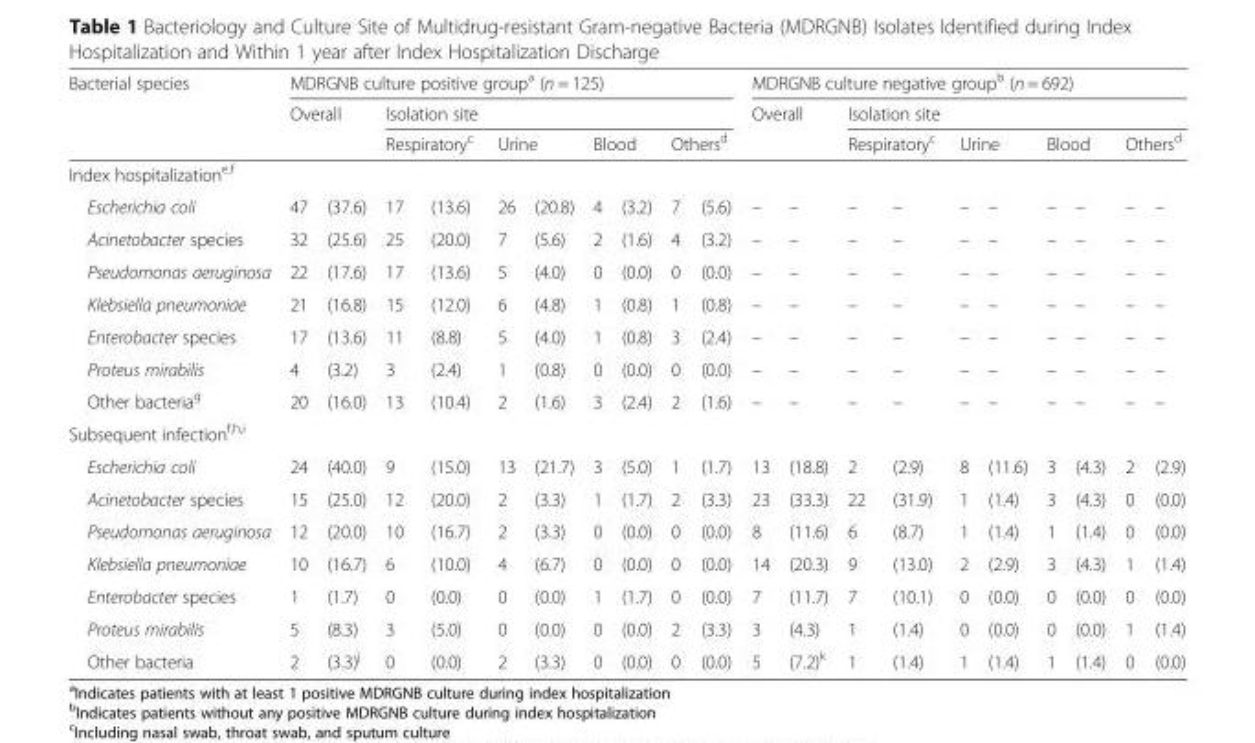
<table><thead><tr><td rowspan="3">Bacterial species</td><td colspan="10">MDRGNB culture positive group<sup>a</sup> (n = 125)</td><td colspan="10">MDRGNB culture negative group<sup>b</sup> (n = 692)</td></tr><tr><td rowspan="2" colspan="2">Overall</td><td colspan="8">Isolation site</td><td rowspan="2" colspan="2">Overall</td><td colspan="8">Isolation site</td></tr><tr><td colspan="2">Respiratory<sup>c</sup></td><td colspan="2">Urine</td><td colspan="2">Blood</td><td colspan="2">Others<sup>d</sup></td><td colspan="2">Respiratory<sup>c</sup></td><td colspan="2">Urine</td><td colspan="2">Blood</td><td colspan="2">Others<sup>d</sup></td></tr><tr><td colspan="21">Index hospitalization<sup>e,f</sup></td></tr><tr><td>Escherichia coli</td><td>47</td><td>(37.6)</td><td>17</td><td>(13.6)</td><td>26</td><td>(20.8)</td><td>4</td><td>(3.2)</td><td>7</td><td>(5.6)</td><td>–</td><td>–</td><td>–</td><td>–</td><td>–</td><td>–</td><td>–</td><td>–</td><td>–</td><td>–</td></tr></thead><tbody><tr><td>Acinetobacter species</td><td>32</td><td>(25.6)</td><td>25</td><td>(20.0)</td><td>7</td><td>(5.6)</td><td>2</td><td>(1.6)</td><td>4</td><td>(3.2)</td><td>–</td><td>–</td><td>–</td><td>–</td><td>–</td><td>–</td><td>–</td><td>–</td><td>–</td><td>–</td></tr><tr><td>Pseudomonas aeruginosa</td><td>22</td><td>(17.6)</td><td>17</td><td>(13.6)</td><td>5</td><td>(4.0)</td><td>0</td><td>(0.0)</td><td>0</td><td>(0.0)</td><td>–</td><td>–</td><td>–</td><td>–</td><td>–</td><td>–</td><td>–</td><td>–</td><td>–</td><td>–</td></tr><tr><td>Klebsiella pneumoniae</td><td>21</td><td>(16.8)</td><td>15</td><td>(12.0)</td><td>6</td><td>(4.8)</td><td>1</td><td>(0.8)</td><td>1</td><td>(0.8)</td><td>–</td><td>–</td><td>–</td><td>–</td><td>–</td><td>–</td><td>–</td><td>–</td><td>–</td><td>–</td></tr><tr><td>Enterobacter species</td><td>17</td><td>(13.6)</td><td>11</td><td>(8.8)</td><td>5</td><td>(4.0)</td><td>1</td><td>(0.8)</td><td>3</td><td>(2.4)</td><td>–</td><td>–</td><td>–</td><td>–</td><td>–</td><td>–</td><td>–</td><td>–</td><td>–</td><td>–</td></tr><tr><td>Proteus mirabilis</td><td>4</td><td>(3.2)</td><td>3</td><td>(2.4)</td><td>1</td><td>(0.8)</td><td>0</td><td>(0.0)</td><td>0</td><td>(0.0)</td><td>–</td><td>–</td><td>–</td><td>–</td><td>–</td><td>–</td><td>–</td><td>–</td><td>–</td><td>–</td></tr><tr><td>Other bacteria<sup>g</sup></td><td>20</td><td>(16.0)</td><td>13</td><td>(10.4)</td><td>2</td><td>(1.6)</td><td>3</td><td>(2.4)</td><td>2</td><td>(1.6)</td><td>–</td><td>–</td><td>–</td><td>–</td><td>–</td><td>–</td><td>–</td><td>–</td><td>–</td><td>–</td></tr><tr><td colspan="21">Subsequent infection<sup>f,h,i</sup></td></tr><tr><td>Escherichia coli</td><td>24</td><td>(40.0)</td><td>9</td><td>(15.0)</td><td>13</td><td>(21.7)</td><td>3</td><td>(5.0)</td><td>1</td><td>(1.7)</td><td>13</td><td>(18.8)</td><td>2</td><td>(2.9)</td><td>8</td><td>(11.6)</td><td>3</td><td>(4.3)</td><td>2</td><td>(2.9)</td></tr><tr><td>Acinetobacter species</td><td>15</td><td>(25.0)</td><td>12</td><td>(20.0)</td><td>2</td><td>(3.3)</td><td>1</td><td>(1.7)</td><td>2</td><td>(3.3)</td><td>23</td><td>(33.3)</td><td>22</td><td>(31.9)</td><td>1</td><td>(1.4)</td><td>3</td><td>(4.3)</td><td>0</td><td>(0.0)</td></tr><tr><td>Pseudomonas aeruginosa</td><td>12</td><td>(20.0)</td><td>10</td><td>(16.7)</td><td>2</td><td>(3.3)</td><td>0</td><td>(0.0)</td><td>0</td><td>(0.0)</td><td>8</td><td>(11.6)</td><td>6</td><td>(8.7)</td><td>1</td><td>(1.4)</td><td>1</td><td>(1.4)</td><td>0</td><td>(0.0)</td></tr><tr><td>Klebsiella pneumoniae</td><td>10</td><td>(16.7)</td><td>6</td><td>(10.0)</td><td>4</td><td>(6.7)</td><td>0</td><td>(0.0)</td><td>0</td><td>(0.0)</td><td>14</td><td>(20.3)</td><td>9</td><td>(13.0)</td><td>2</td><td>(2.9)</td><td>3</td><td>(4.3)</td><td>1</td><td>(1.4)</td></tr><tr><td>Enterobacter species</td><td>1</td><td>(1.7)</td><td>0</td><td>(0.0)</td><td>0</td><td>(0.0)</td><td>1</td><td>(1.7)</td><td>0</td><td>(0.0)</td><td>7</td><td>(11.7)</td><td>7</td><td>(10.1)</td><td>0</td><td>(0.0)</td><td>0</td><td>(0.0)</td><td>0</td><td>(0.0)</td></tr><tr><td>Proteus mirabilis</td><td>5</td><td>(8.3)</td><td>3</td><td>(5.0)</td><td>0</td><td>(0.0)</td><td>0</td><td>(0.0)</td><td>2</td><td>(3.3)</td><td>3</td><td>(4.3)</td><td>1</td><td>(1.4)</td><td>0</td><td>(0.0)</td><td>0</td><td>(0.0)</td><td>1</td><td>(1.4)</td></tr><tr><td>Other bacteria</td><td>2</td><td>(3.3)<sup>j</sup></td><td>0</td><td>(0.0)</td><td>2</td><td>(3.3)</td><td>0</td><td>(0.0)</td><td>0</td><td>(0.0)</td><td>5</td><td>(7.2)<sup>k</sup></td><td>1</td><td>(1.4)</td><td>1</td><td>(1.4)</td><td>1</td><td>(1.4)</td><td>0</td><td>(0.0)</td></tr></tbody></table>